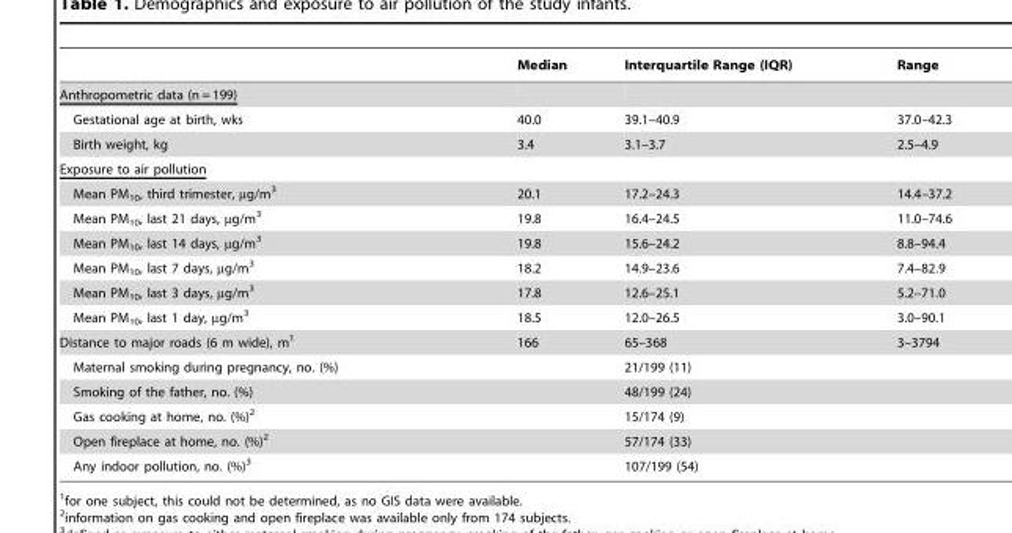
<table><thead><tr><td></td><td>Median</td><td>Interquartile Range (IQR)</td><td>Range</td></tr></thead><tbody><tr><td colspan="4">Anthropometric data (n = 199)</td></tr><tr><td>Gestational age at birth, wks</td><td>40.0</td><td>39.1–40.9</td><td>37.0–42.3</td></tr><tr><td>Birth weight, kg</td><td>3.4</td><td>3.1–3.7</td><td>2.5–4.9</td></tr><tr><td colspan="4">Exposure to air pollution</td></tr><tr><td>Mean PM<sub>10</sub>, third trimester, µg/m<sup>3</sup></td><td>20.1</td><td>17.2–24.3</td><td>14.4–37.2</td></tr><tr><td>Mean PM<sub>10</sub>, last 21 days, µg/m<sup>3</sup></td><td>19.8</td><td>16.4–24.5</td><td>11.0–74.6</td></tr><tr><td>Mean PM<sub>10</sub>, last 14 days, µg/m<sup>3</sup></td><td>19.8</td><td>15.6–24.2</td><td>8.8–94.4</td></tr><tr><td>Mean PM<sub>10</sub>, last 7 days, µg/m<sup>3</sup></td><td>18.2</td><td>14.9–23.6</td><td>7.4–82.9</td></tr><tr><td>Mean PM<sub>10</sub>, last 3 days, µg/m<sup>3</sup></td><td>17.8</td><td>12.6–25.1</td><td>5.2–71.0</td></tr><tr><td>Mean PM<sub>10</sub>, last 1 day, µg/m<sup>3</sup></td><td>18.5</td><td>12.0–26.5</td><td>3.0–90.1</td></tr><tr><td>Distance to major roads (6 m wide), m<sup>1</sup></td><td>166</td><td>65–368</td><td>3–3794</td></tr><tr><td colspan="2">Maternal smoking during pregnancy, no. (%)</td><td>21/199 (11)</td><td></td></tr><tr><td colspan="2">Smoking of the father, no. (%)</td><td>48/199 (24)</td><td></td></tr><tr><td colspan="2">Gas cooking at home, no. (%)<sup>2</sup></td><td>15/174 (9)</td><td></td></tr><tr><td colspan="2">Open fireplace at home, no. (%)<sup>2</sup></td><td>57/174 (33)</td><td></td></tr><tr><td colspan="2">Any indoor pollution, no. (%)<sup>3</sup></td><td>107/199 (54)</td><td></td></tr></tbody></table>